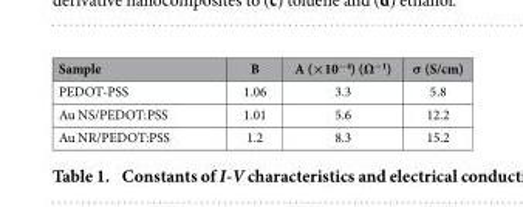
<table><thead><tr><td>Sample</td><td>B</td><td>A (×10<sup>−4</sup>) (Ω<sup>−1</sup>)</td><td>σ (S/cm)</td></tr></thead><tbody><tr><td>PEDOT-PSS</td><td>1.06</td><td>3.3</td><td>5.8</td></tr><tr><td>Au NS/PEDOT:PSS</td><td>1.01</td><td>5.6</td><td>12.2</td></tr><tr><td>Au NR/PEDOT:PSS</td><td>1.2</td><td>8.3</td><td>15.2</td></tr></tbody></table>